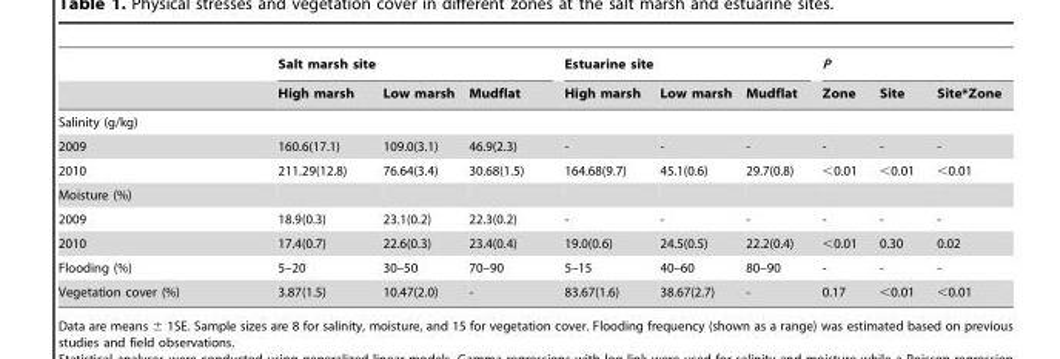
<table><thead><tr><td rowspan="2"></td><td colspan="3">Salt marsh site</td><td colspan="3">Estuarine site</td><td colspan="3">P</td></tr><tr><td>High marsh</td><td>Low marsh</td><td>Mudflat</td><td>High marsh</td><td>Low marsh</td><td>Mudflat</td><td>Zone</td><td>Site</td><td>Site*Zone</td></tr></thead><tbody><tr><td colspan="10">Salinity (g/kg)</td></tr><tr><td>2009</td><td>160.6(17.1)</td><td>109.0(3.1)</td><td>46.9(2.3)</td><td>-</td><td>-</td><td>-</td><td>-</td><td>-</td><td>-</td></tr><tr><td>2010</td><td>211.29(12.8)</td><td>76.64(3.4)</td><td>30.68(1.5)</td><td>164.68(9.7)</td><td>45.1(0.6)</td><td>29.7(0.8)</td><td>&lt;0.01</td><td>&lt;0.01</td><td>&lt;0.01</td></tr><tr><td colspan="10">Moisture (%)</td></tr><tr><td>2009</td><td>18.9(0.3)</td><td>23.1(0.2)</td><td>22.3(0.2)</td><td>-</td><td>-</td><td>-</td><td>-</td><td>-</td><td>-</td></tr><tr><td>2010</td><td>17.4(0.7)</td><td>22.6(0.3)</td><td>23.4(0.4)</td><td>19.0(0.6)</td><td>24.5(0.5)</td><td>22.2(0.4)</td><td>&lt;0.01</td><td>0.30</td><td>0.02</td></tr><tr><td>Flooding (%)</td><td>5–20</td><td>30–50</td><td>70–90</td><td>5–15</td><td>40–60</td><td>80–90</td><td>-</td><td>-</td><td>-</td></tr><tr><td>Vegetation cover (%)</td><td>3.87(1.5)</td><td>10.47(2.0)</td><td>-</td><td>83.67(1.6)</td><td>38.67(2.7)</td><td>-</td><td>0.17</td><td>&lt;0.01</td><td>&lt;0.01</td></tr></tbody></table>